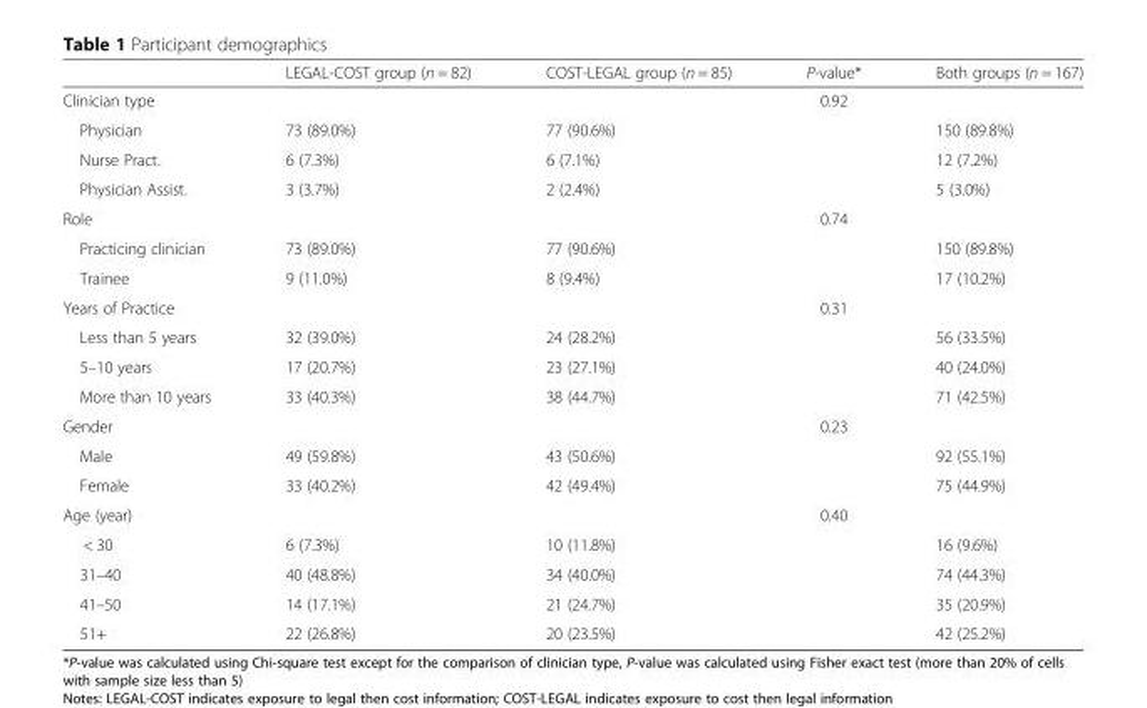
<table><thead><tr><td></td><td>LEGAL-COST group (n = 82)</td><td>COST-LEGAL group (n = 85)</td><td>P-value*</td><td>Both groups (n = 167)</td></tr></thead><tbody><tr><td>Clinician type</td><td></td><td></td><td>0.92</td><td></td></tr><tr><td>Physician</td><td>73 (89.0%)</td><td>77 (90.6%)</td><td></td><td>150 (89.8%)</td></tr><tr><td>Nurse Pract.</td><td>6 (7.3%)</td><td>6 (7.1%)</td><td></td><td>12 (7.2%)</td></tr><tr><td>Physician Assist.</td><td>3 (3.7%)</td><td>2 (2.4%)</td><td></td><td>5 (3.0%)</td></tr><tr><td>Role</td><td></td><td></td><td>0.74</td><td></td></tr><tr><td>Practicing clinician</td><td>73 (89.0%)</td><td>77 (90.6%)</td><td></td><td>150 (89.8%)</td></tr><tr><td>Trainee</td><td>9 (11.0%)</td><td>8 (9.4%)</td><td></td><td>17 (10.2%)</td></tr><tr><td>Years of Practice</td><td></td><td></td><td>0.31</td><td></td></tr><tr><td>Less than 5 years</td><td>32 (39.0%)</td><td>24 (28.2%)</td><td></td><td>56 (33.5%)</td></tr><tr><td>5–10 years</td><td>17 (20.7%)</td><td>23 (27.1%)</td><td></td><td>40 (24.0%)</td></tr><tr><td>More than 10 years</td><td>33 (40.3%)</td><td>38 (44.7%)</td><td></td><td>71 (42.5%)</td></tr><tr><td>Gender</td><td></td><td></td><td>0.23</td><td></td></tr><tr><td>Male</td><td>49 (59.8%)</td><td>43 (50.6%)</td><td></td><td>92 (55.1%)</td></tr><tr><td>Female</td><td>33 (40.2%)</td><td>42 (49.4%)</td><td></td><td>75 (44.9%)</td></tr><tr><td>Age (year)</td><td></td><td></td><td>0.40</td><td></td></tr><tr><td>&lt; 30</td><td>6 (7.3%)</td><td>10 (11.8%)</td><td></td><td>16 (9.6%)</td></tr><tr><td>31–40</td><td>40 (48.8%)</td><td>34 (40.0%)</td><td></td><td>74 (44.3%)</td></tr><tr><td>41–50</td><td>14 (17.1%)</td><td>21 (24.7%)</td><td></td><td>35 (20.9%)</td></tr><tr><td>51+</td><td>22 (26.8%)</td><td>20 (23.5%)</td><td></td><td>42 (25.2%)</td></tr></tbody></table>